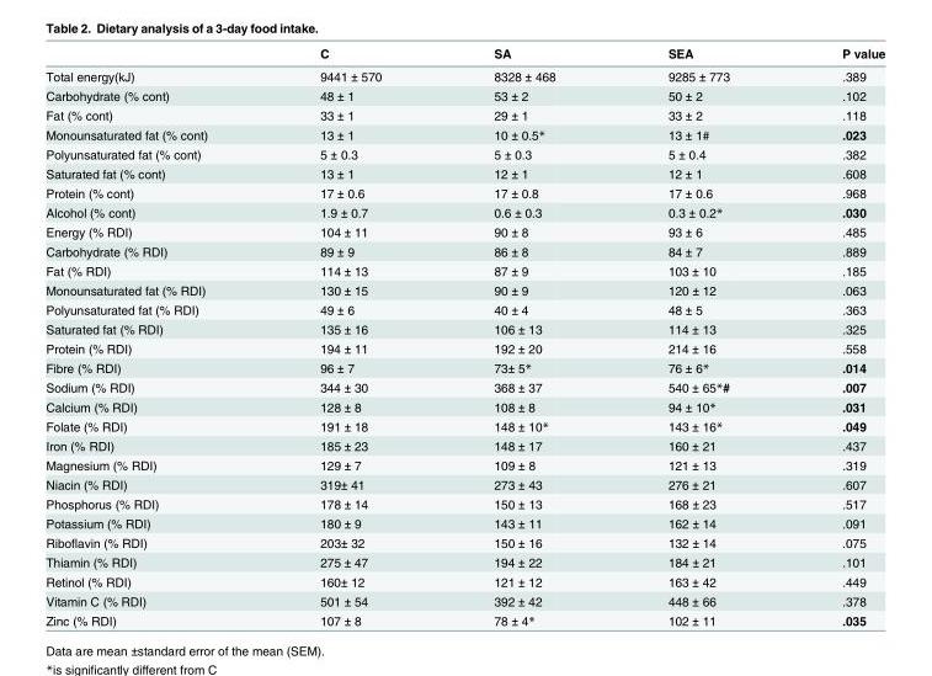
<table><thead><tr><td></td><td>C</td><td>SA</td><td>SEA</td><td>P value</td></tr></thead><tbody><tr><td>Total energy(kJ)</td><td>9441 ± 570</td><td>8328 ± 468</td><td>9285 ± 773</td><td>.389</td></tr><tr><td>Carbohydrate (% cont)</td><td>48 ± 1</td><td>53 ± 2</td><td>50 ± 2</td><td>.102</td></tr><tr><td>Fat (% cont)</td><td>33 ± 1</td><td>29 ± 1</td><td>33 ± 2</td><td>.118</td></tr><tr><td>Monounsaturated fat (% cont)</td><td>13 ± 1</td><td>10 ± 0.5*</td><td>13 ± 1#</td><td>.023</td></tr><tr><td>Polyunsaturated fat (% cont)</td><td>5 ± 0.3</td><td>5 ± 0.3</td><td>5 ± 0.4</td><td>.382</td></tr><tr><td>Saturated fat (% cont)</td><td>13 ± 1</td><td>12 ± 1</td><td>12 ± 1</td><td>.608</td></tr><tr><td>Protein (% cont)</td><td>17 ± 0.6</td><td>17 ± 0.8</td><td>17 ± 0.6</td><td>.968</td></tr><tr><td>Alcohol (% cont)</td><td>1.9 ± 0.7</td><td>0.6 ± 0.3</td><td>0.3 ± 0.2*</td><td>.030</td></tr><tr><td>Energy (% RDI)</td><td>104 ± 11</td><td>90 ± 8</td><td>93 ± 6</td><td>.485</td></tr><tr><td>Carbohydrate (% RDI)</td><td>89 ± 9</td><td>86 ± 8</td><td>84 ± 7</td><td>.889</td></tr><tr><td>Fat (% RDI)</td><td>114 ± 13</td><td>87 ± 9</td><td>103 ± 10</td><td>.185</td></tr><tr><td>Monounsaturated fat (% RDI)</td><td>130 ± 15</td><td>90 ± 9</td><td>120 ± 12</td><td>.063</td></tr><tr><td>Polyunsaturated fat (% RDI)</td><td>49 ± 6</td><td>40 ± 4</td><td>48 ± 5</td><td>.363</td></tr><tr><td>Saturated fat (% RDI)</td><td>135 ± 16</td><td>106 ± 13</td><td>114 ± 13</td><td>.325</td></tr><tr><td>Protein (% RDI)</td><td>194 ± 11</td><td>192 ± 20</td><td>214 ± 16</td><td>.558</td></tr><tr><td>Fibre (% RDI)</td><td>96 ± 7</td><td>73± 5*</td><td>76 ± 6*</td><td>.014</td></tr><tr><td>Sodium (% RDI)</td><td>344 ± 30</td><td>368 ± 37</td><td>540 ± 65*#</td><td>.007</td></tr><tr><td>Calcium (% RDI)</td><td>128 ± 8</td><td>108 ± 8</td><td>94 ± 10*</td><td>.031</td></tr><tr><td>Folate (% RDI)</td><td>191 ± 18</td><td>148 ± 10*</td><td>143 ± 16*</td><td>.049</td></tr><tr><td>Iron (% RDI)</td><td>185 ± 23</td><td>148 ± 17</td><td>160 ± 21</td><td>.437</td></tr><tr><td>Magnesium (% RDI)</td><td>129 ± 7</td><td>109 ± 8</td><td>121 ± 13</td><td>.319</td></tr><tr><td>Niacin (% RDI)</td><td>319± 41</td><td>273 ± 43</td><td>276 ± 21</td><td>.607</td></tr><tr><td>Phosphorus (% RDI)</td><td>178 ± 14</td><td>150 ± 13</td><td>168 ± 23</td><td>.517</td></tr><tr><td>Potassium (% RDI)</td><td>180 ± 9</td><td>143 ± 11</td><td>162 ± 14</td><td>.091</td></tr><tr><td>Riboflavin (% RDI)</td><td>203± 32</td><td>150 ± 16</td><td>132 ± 14</td><td>.075</td></tr><tr><td>Thiamin (% RDI)</td><td>275 ± 47</td><td>194 ± 22</td><td>184 ± 21</td><td>.101</td></tr><tr><td>Retinol (% RDI)</td><td>160± 12</td><td>121 ± 12</td><td>163 ± 42</td><td>.449</td></tr><tr><td>Vitamin C (% RDI)</td><td>501 ± 54</td><td>392 ± 42</td><td>448 ± 66</td><td>.378</td></tr><tr><td>Zinc (% RDI)</td><td>107 ± 8</td><td>78 ± 4*</td><td>102 ± 11</td><td>.035</td></tr></tbody></table>